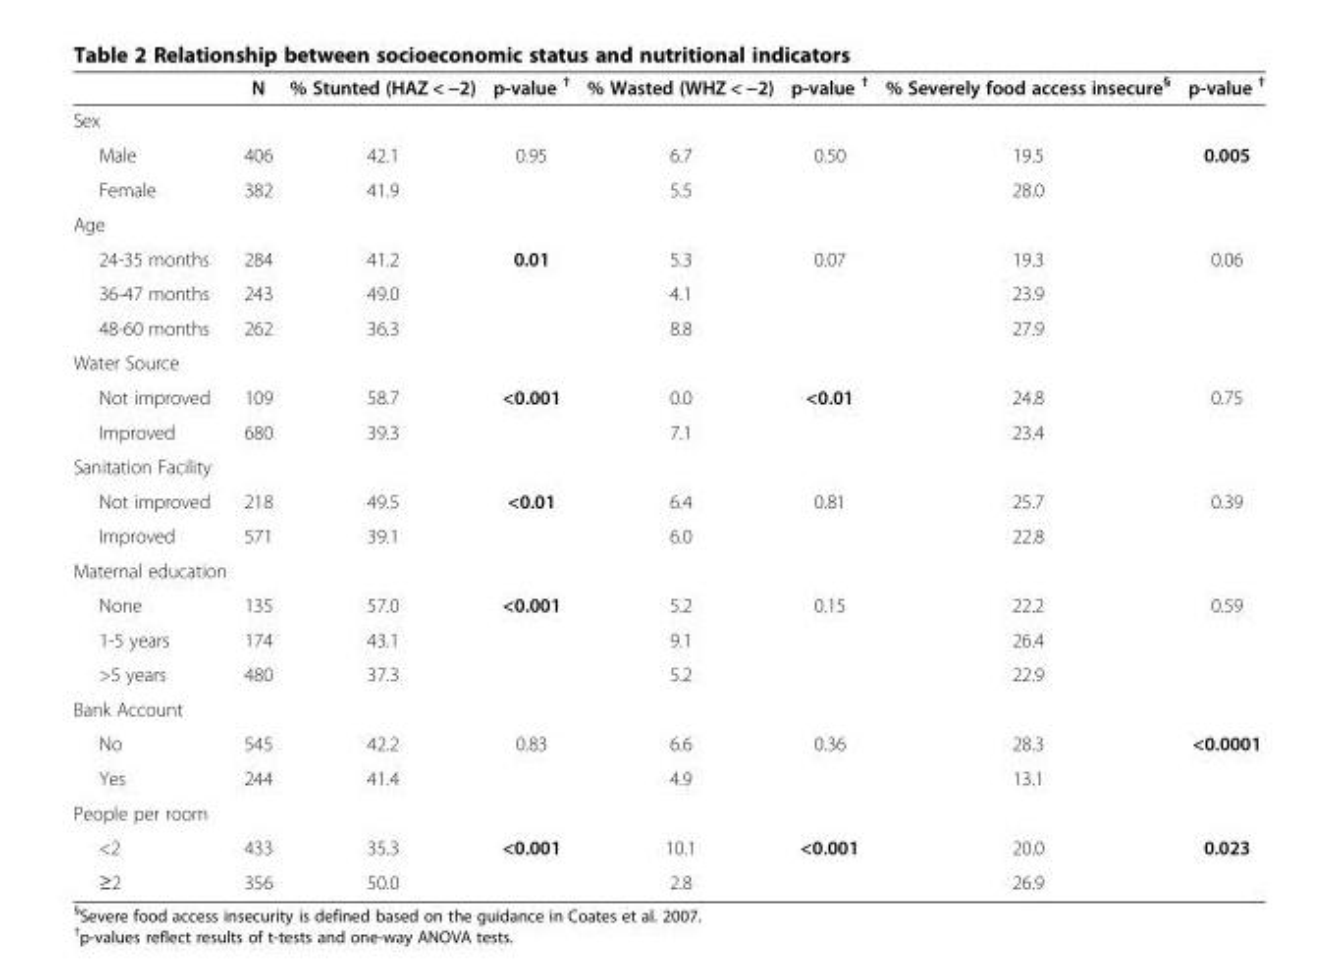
<table><thead><tr><td></td><td>N</td><td>% Stunted (HAZ &lt; −2)</td><td>p-value <sup>†</sup></td><td>% Wasted (WHZ &lt; −2)</td><td>p-value <sup>†</sup></td><td>% Severely food access insecure<sup>§</sup></td><td>p-value <sup>†</sup></td></tr></thead><tbody><tr><td colspan="8">Sex</td></tr><tr><td>Male</td><td>406</td><td>42.1</td><td rowspan="2">0.95</td><td>6.7</td><td rowspan="2">0.50</td><td>19.5</td><td rowspan="2">0.005</td></tr><tr><td>Female</td><td>382</td><td>41.9</td><td>5.5</td><td>28.0</td></tr><tr><td colspan="8">Age</td></tr><tr><td>24-35 months</td><td>284</td><td>41.2</td><td rowspan="3">0.01</td><td>5.3</td><td rowspan="3">0.07</td><td>19.3</td><td rowspan="3">0.06</td></tr><tr><td>36-47 months</td><td>243</td><td>49.0</td><td>4.1</td><td>23.9</td></tr><tr><td>48-60 months</td><td>262</td><td>36.3</td><td>8.8</td><td>27.9</td></tr><tr><td colspan="8">Water Source</td></tr><tr><td>Not improved</td><td>109</td><td>58.7</td><td rowspan="2">&lt;0.001</td><td>0.0</td><td rowspan="2">&lt;0.01</td><td>24.8</td><td rowspan="2">0.75</td></tr><tr><td>Improved</td><td>680</td><td>39.3</td><td>7.1</td><td>23.4</td></tr><tr><td colspan="8">Sanitation Facility</td></tr><tr><td>Not improved</td><td>218</td><td>49.5</td><td rowspan="2">&lt;0.01</td><td>6.4</td><td rowspan="2">0.81</td><td>25.7</td><td rowspan="2">0.39</td></tr><tr><td>Improved</td><td>571</td><td>39.1</td><td>6.0</td><td>22.8</td></tr><tr><td colspan="8">Maternal education</td></tr><tr><td>None</td><td>135</td><td>57.0</td><td rowspan="3">&lt;0.001</td><td>5.2</td><td rowspan="3">0.15</td><td>22.2</td><td rowspan="3">0.59</td></tr><tr><td>1-5 years</td><td>174</td><td>43.1</td><td>9.1</td><td>26.4</td></tr><tr><td>&gt;5 years</td><td>480</td><td>37.3</td><td>5.2</td><td>22.9</td></tr><tr><td colspan="8">Bank Account</td></tr><tr><td>No</td><td>545</td><td>42.2</td><td rowspan="2">0.83</td><td>6.6</td><td rowspan="2">0.36</td><td>28.3</td><td rowspan="2">&lt;0.0001</td></tr><tr><td>Yes</td><td>244</td><td>41.4</td><td>4.9</td><td>13.1</td></tr><tr><td colspan="8">People per room</td></tr><tr><td>&lt;2</td><td>433</td><td>35.3</td><td rowspan="2">&lt;0.001</td><td>10.1</td><td rowspan="2">&lt;0.001</td><td>20.0</td><td rowspan="2">0.023</td></tr><tr><td>≥2</td><td>356</td><td>50.0</td><td>2.8</td><td>26.9</td></tr></tbody></table>